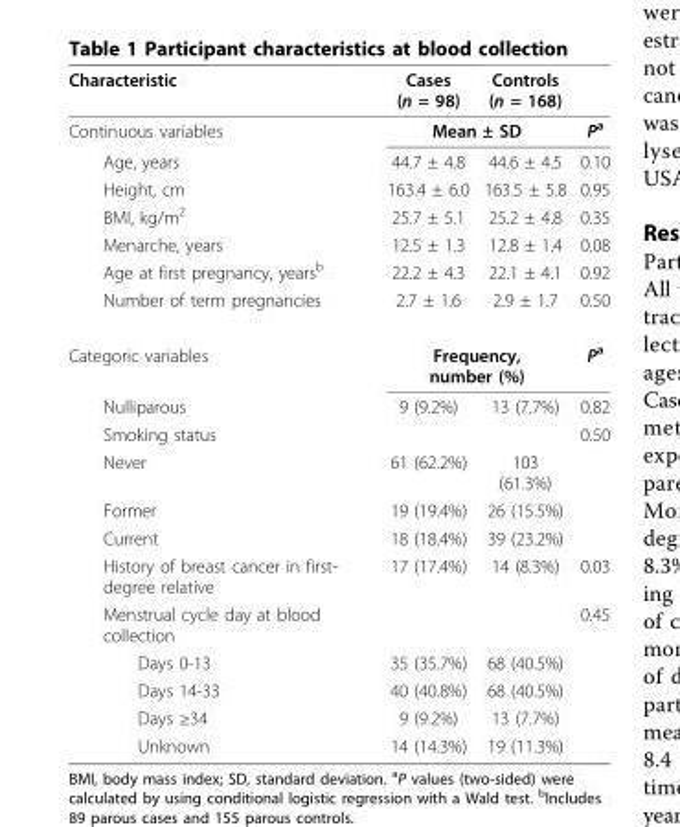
<table><thead><tr><td>Characteristic</td><td>Cases (n = 98)</td><td>Controls (n = 168)</td><td></td></tr></thead><tbody><tr><td>Continuous variables</td><td colspan="2">Mean ± SD</td><td>P<sup>a</sup></td></tr><tr><td>Age, years</td><td>44.7 ± 4.8</td><td>44.6 ± 4.5</td><td>0.10</td></tr><tr><td>Height, cm</td><td>163.4 ± 6.0</td><td>163.5 ± 5.8</td><td>0.95</td></tr><tr><td>BMI, kg/m<sup>2</sup></td><td>25.7 ± 5.1</td><td>25.2 ± 4.8</td><td>0.35</td></tr><tr><td>Menarche, years</td><td>12.5 ± 1.3</td><td>12.8 ± 1.4</td><td>0.08</td></tr><tr><td>Age at first pregnancy, years<sup>b</sup></td><td>22.2 ± 4.3</td><td>22.1 ± 4.1</td><td>0.92</td></tr><tr><td>Number of term pregnancies</td><td>2.7 ± 1.6</td><td>2.9 ± 1.7</td><td>0.50</td></tr><tr><td>Categoric variables</td><td colspan="2">Frequency, number (%)</td><td>P<sup>a</sup></td></tr><tr><td>Nulliparous</td><td>9 (9.2%)</td><td>13 (7.7%)</td><td>0.82</td></tr><tr><td>Smoking status</td><td></td><td></td><td>0.50</td></tr><tr><td>Never</td><td>61 (62.2%)</td><td>103 (61.3%)</td><td></td></tr><tr><td>Former</td><td>19 (19.4%)</td><td>26 (15.5%)</td><td></td></tr><tr><td>Current</td><td>18 (18.4%)</td><td>39 (23.2%)</td><td></td></tr><tr><td>History of breast cancer in first- degree relative</td><td>17 (17.4%)</td><td>14 (8.3%)</td><td>0.03</td></tr><tr><td>Menstrual cycle day at blood collection</td><td></td><td></td><td>0.45</td></tr><tr><td>Days 0-13</td><td>35 (35.7%)</td><td>68 (40.5%)</td><td></td></tr><tr><td>Days 14-33</td><td>40 (40.8%)</td><td>68 (40.5%)</td><td></td></tr><tr><td>Days ≥34</td><td>9 (9.2%)</td><td>13 (7.7%)</td><td></td></tr><tr><td>Unknown</td><td>14 (14.3%)</td><td>19 (11.3%)</td><td></td></tr></tbody></table>